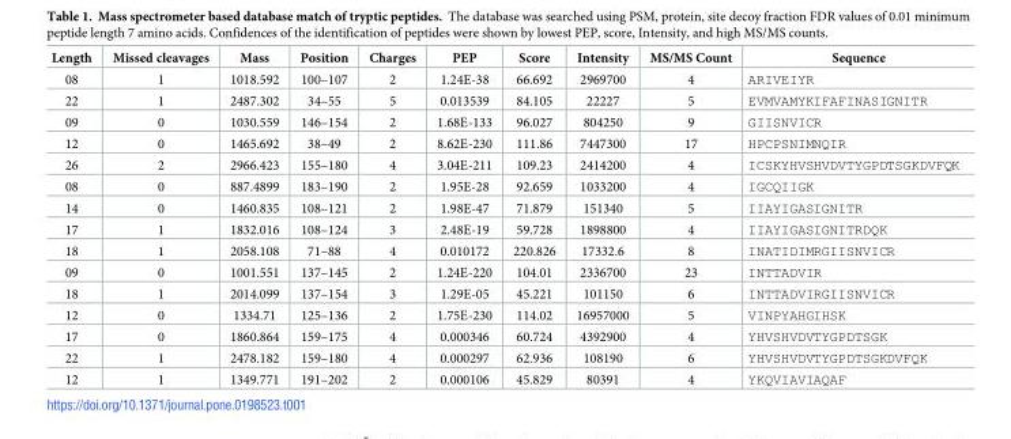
<table><thead><tr><td>Length</td><td>Missed cleavages</td><td>Mass</td><td>Position</td><td>Charges</td><td>PEP</td><td>Score</td><td>Intensity</td><td>MS/MS Count</td><td>Sequence</td></tr></thead><tbody><tr><td>08</td><td>1</td><td>1018.592</td><td>100–107</td><td>2</td><td>1.24E-38</td><td>66.692</td><td>2969700</td><td>4</td><td>ARIVEIYR</td></tr><tr><td>22</td><td>1</td><td>2487.302</td><td>34–55</td><td>5</td><td>0.013539</td><td>84.105</td><td>22227</td><td>5</td><td>EVMVAMYKIFAFINASIGNITR</td></tr><tr><td>09</td><td>0</td><td>1030.559</td><td>146–154</td><td>2</td><td>1.68E-133</td><td>96.027</td><td>804250</td><td>9</td><td>GIISNVICR</td></tr><tr><td>12</td><td>0</td><td>1465.692</td><td>38–49</td><td>2</td><td>8.62E-230</td><td>111.86</td><td>7447300</td><td>17</td><td>HPCPSNIMNQIR</td></tr><tr><td>26</td><td>2</td><td>2966.423</td><td>155–180</td><td>4</td><td>3.04E-211</td><td>109.23</td><td>2414200</td><td>4</td><td>ICSKYHVSHVDVTYGPDTSGKDVFQK</td></tr><tr><td>08</td><td>0</td><td>887.4899</td><td>183–190</td><td>2</td><td>1.95E-28</td><td>92.659</td><td>1033200</td><td>4</td><td>IGCQIIGK</td></tr><tr><td>14</td><td>0</td><td>1460.835</td><td>108–121</td><td>2</td><td>1.98E-47</td><td>71.879</td><td>151340</td><td>5</td><td>IIAYIGASIGNITR</td></tr><tr><td>17</td><td>1</td><td>1832.016</td><td>108–124</td><td>3</td><td>2.48E-19</td><td>59.728</td><td>1898800</td><td>4</td><td>IIAYIGASIGNITRDQK</td></tr><tr><td>18</td><td>1</td><td>2058.108</td><td>71–88</td><td>4</td><td>0.010172</td><td>220.826</td><td>17332.6</td><td>8</td><td>INATIDIMRGIISNVICR</td></tr><tr><td>09</td><td>0</td><td>1001.551</td><td>137–145</td><td>2</td><td>1.24E-220</td><td>104.01</td><td>2336700</td><td>23</td><td>INTTADVIR</td></tr><tr><td>18</td><td>1</td><td>2014.099</td><td>137–154</td><td>3</td><td>1.29E-05</td><td>45.221</td><td>101150</td><td>6</td><td>INTTADVIRGIISNVICR</td></tr><tr><td>12</td><td>0</td><td>1334.71</td><td>125–136</td><td>2</td><td>1.75E-230</td><td>114.02</td><td>16957000</td><td>5</td><td>VINPYAHGIHSK</td></tr><tr><td>17</td><td>0</td><td>1860.864</td><td>159–175</td><td>4</td><td>0.000346</td><td>60.724</td><td>4392900</td><td>4</td><td>YHVSHVDVTYGPDTSGK</td></tr><tr><td>22</td><td>1</td><td>2478.182</td><td>159–180</td><td>4</td><td>0.000297</td><td>62.936</td><td>108190</td><td>6</td><td>YHVSHVDVTYGPDTSGKDVFQK</td></tr><tr><td>12</td><td>1</td><td>1349.771</td><td>191–202</td><td>2</td><td>0.000106</td><td>45.829</td><td>80391</td><td>4</td><td>YKQVIAVIAQAF</td></tr></tbody></table>